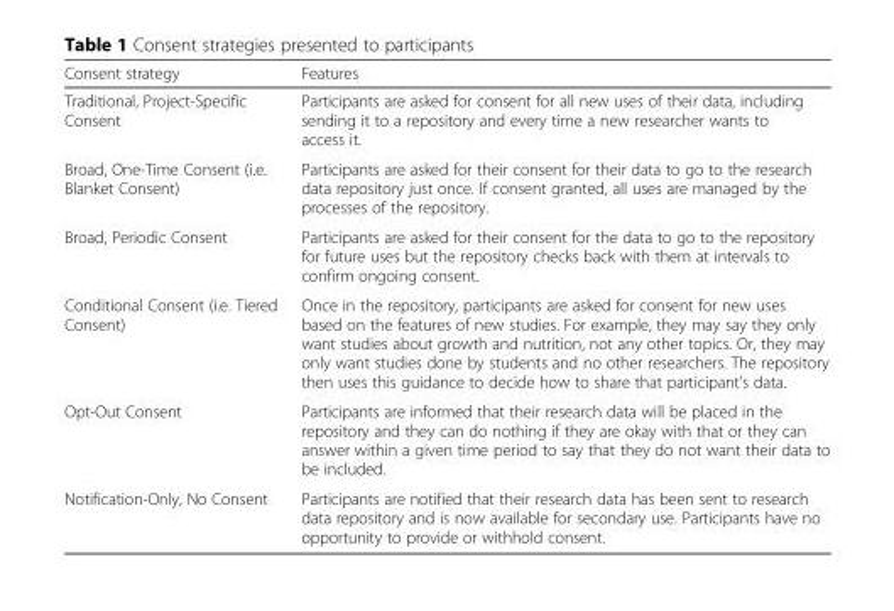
<table><thead><tr><td>Consent strategy</td><td>Features</td></tr></thead><tbody><tr><td>Traditional, Project-Specific Consent</td><td>Participants are asked for consent for all new uses of their data, including sending it to a repository and every time a new researcher wants to access it.</td></tr><tr><td>Broad, One-Time Consent (i.e. Blanket Consent)</td><td>Participants are asked for their consent for their data to go to the research data repository just once. If consent granted, all uses are managed by the processes of the repository.</td></tr><tr><td>Broad, Periodic Consent</td><td>Participants are asked for their consent for the data to go to the repository for future uses but the repository checks back with them at intervals to confirm ongoing consent.</td></tr><tr><td>Conditional Consent (i.e. Tiered Consent)</td><td>Once in the repository, participants are asked for consent for new uses based on the features of new studies. For example, they may say they only want studies about growth and nutrition, not any other topics. Or, they may only want studies done by students and no other researchers. The repository then uses this guidance to decide how to share that participant’s data.</td></tr><tr><td>Opt-Out Consent</td><td>Participants are informed that their research data will be placed in the repository and they can do nothing if they are okay with that or they can answer within a given time period to say that they do not want their data to be included.</td></tr><tr><td>Notification-Only, No Consent</td><td>Participants are notified that their research data has been sent to research data repository and is now available for secondary use. Participants have no opportunity to provide or withhold consent.</td></tr></tbody></table>